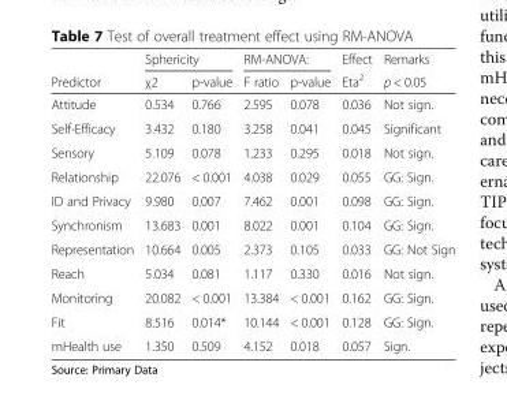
<table><thead><tr><td rowspan="2">Predictor</td><td colspan="2">Sphericity</td><td colspan="2">RM-ANOVA:</td><td rowspan="2">Effect Eta<sup>2</sup></td><td rowspan="2">Remarks p &lt; 0.05</td></tr><tr><td>χ2</td><td>p-value</td><td>F ratio</td><td>p-value</td></tr></thead><tbody><tr><td>Attitude</td><td>0.534</td><td>0.766</td><td>2.595</td><td>0.078</td><td>0.036</td><td>Not sign.</td></tr><tr><td>Self-Efficacy</td><td>3.432</td><td>0.180</td><td>3.258</td><td>0.041</td><td>0.045</td><td>Significant</td></tr><tr><td>Sensory</td><td>5.109</td><td>0.078</td><td>1.233</td><td>0.295</td><td>0.018</td><td>Not sign.</td></tr><tr><td>Relationship</td><td>22.076</td><td>&lt; 0.001</td><td>4.038</td><td>0.029</td><td>0.055</td><td>GG: Sign.</td></tr><tr><td>ID and Privacy</td><td>9.980</td><td>0.007</td><td>7.462</td><td>0.001</td><td>0.098</td><td>GG: Sign.</td></tr><tr><td>Synchronism</td><td>13.683</td><td>0.001</td><td>8.022</td><td>0.001</td><td>0.104</td><td>GG: Sign.</td></tr><tr><td>Representation</td><td>10.664</td><td>0.005</td><td>2.373</td><td>0.105</td><td>0.033</td><td>GG: Not Sign</td></tr><tr><td>Reach</td><td>5.034</td><td>0.081</td><td>1.117</td><td>0.330</td><td>0.016</td><td>Not sign.</td></tr><tr><td>Monitoring</td><td>20.082</td><td>&lt; 0.001</td><td>13.384</td><td>&lt; 0.001</td><td>0.162</td><td>GG: Sign.</td></tr><tr><td>Fit</td><td>8.516</td><td>0.014*</td><td>10.144</td><td>&lt; 0.001</td><td>0.128</td><td>GG: Sign.</td></tr><tr><td>mHealth use</td><td>1.350</td><td>0.509</td><td>4.152</td><td>0.018</td><td>0.057</td><td>Sign.</td></tr></tbody></table>